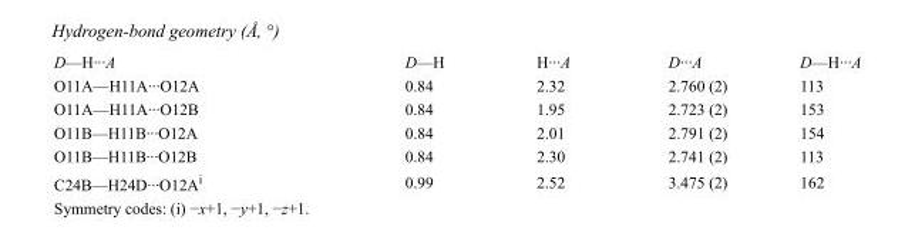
<table><tbody><tr><td>D—H···A</td><td>D—H</td><td>H···A</td><td>D···A</td><td>D—H···A</td></tr><tr><td>O11A—H11A···O12A</td><td>0.84</td><td>2.32</td><td>2.760 (2)</td><td>113</td></tr><tr><td>O11A—H11A···O12B</td><td>0.84</td><td>1.95</td><td>2.723 (2)</td><td>153</td></tr><tr><td>O11B—H11B···O12A</td><td>0.84</td><td>2.01</td><td>2.791 (2)</td><td>154</td></tr><tr><td>O11B—H11B···O12B</td><td>0.84</td><td>2.30</td><td>2.741 (2)</td><td>113</td></tr><tr><td>C24B—H24D···O12A<sup>i</sup></td><td>0.99</td><td>2.52</td><td>3.475 (2)</td><td>162</td></tr></tbody></table>